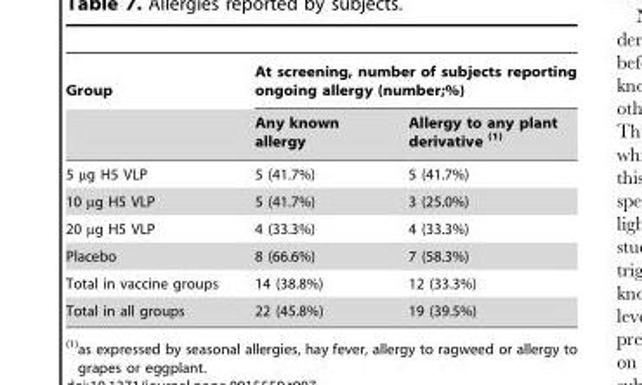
<table><thead><tr><td rowspan="2">Group</td><td colspan="2">At screening, number of subjects reporting ongoing allergy (number;%)</td></tr><tr><td>Any known allergy</td><td>Allergy to any plant derivative (1)</td></tr></thead><tbody><tr><td>5 µg H5 VLP</td><td>5 (41.7%)</td><td>5 (41.7%)</td></tr><tr><td>10 µg H5 VLP</td><td>5 (41.7%)</td><td>3 (25.0%)</td></tr><tr><td>20 µg H5 VLP</td><td>4 (33.3%)</td><td>4 (33.3%)</td></tr><tr><td>Placebo</td><td>8 (66.6%)</td><td>7 (58.3%)</td></tr><tr><td>Total in vaccine groups</td><td>14 (38.8%)</td><td>12 (33.3%)</td></tr><tr><td>Total in all groups</td><td>22 (45.8%)</td><td>19 (39.5%)</td></tr></tbody></table>